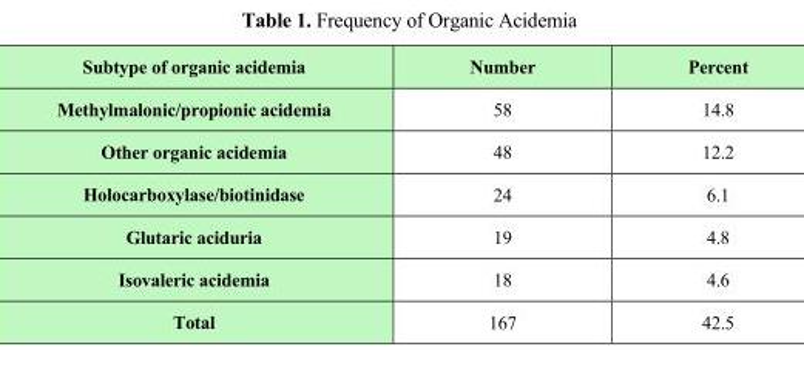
<table><thead><tr><td>Percent</td><td>Number</td><td>Subtype of organic acidemia</td></tr></thead><tbody><tr><td>14.8</td><td>58</td><td>Methylmalonic/propionic acidemia</td></tr><tr><td>12.2</td><td>48</td><td>Other organic acidemia</td></tr><tr><td>6.1</td><td>24</td><td>Holocarboxylase/biotinidase</td></tr><tr><td>4.8</td><td>19</td><td>Glutaric aciduria</td></tr><tr><td>4.6</td><td>18</td><td>Isovaleric acidemia</td></tr><tr><td>42.5</td><td>167</td><td>Total</td></tr></tbody></table>